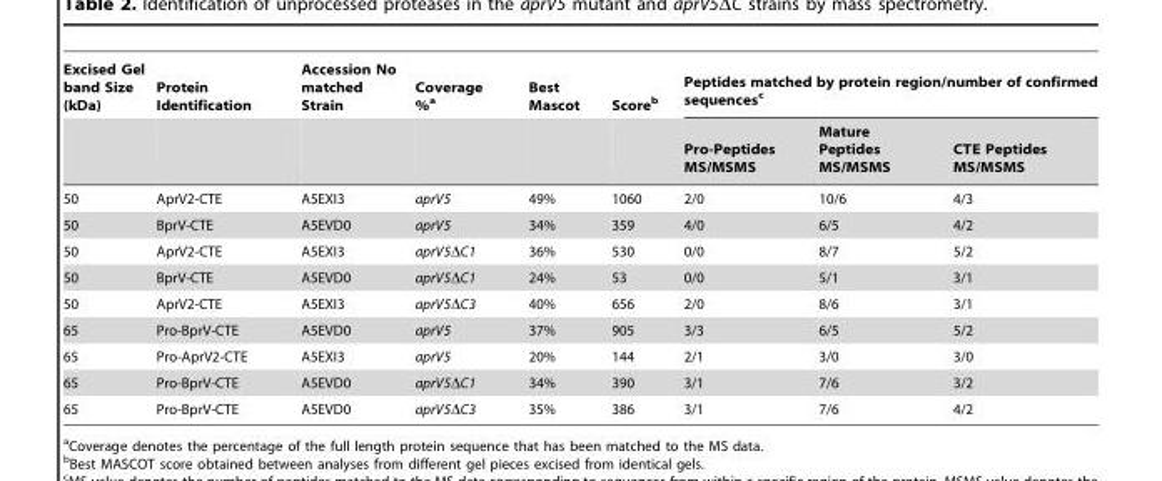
<table><thead><tr><td rowspan="2">Excised Gel band Size (kDa)</td><td rowspan="2">Protein Identification</td><td rowspan="2">Accession No matched Strain</td><td rowspan="2">Coverage %<sup>a</sup></td><td rowspan="2">Best Mascot</td><td rowspan="2">Score<sup>b</sup></td><td colspan="3">Peptides matched by protein region/number of confirmed sequences<sup>c</sup></td></tr><tr><td>Pro-Peptides MS/MSMS</td><td>Mature Peptides MS/MSMS</td><td>CTE Peptides MS/MSMS</td></tr></thead><tbody><tr><td>50</td><td>AprV2-CTE</td><td>A5EXI3</td><td>aprV5</td><td>49%</td><td>1060</td><td>2/0</td><td>10/6</td><td>4/3</td></tr><tr><td>50</td><td>BprV-CTE</td><td>A5EVD0</td><td>aprV5</td><td>34%</td><td>359</td><td>4/0</td><td>6/5</td><td>4/2</td></tr><tr><td>50</td><td>AprV2-CTE</td><td>A5EXI3</td><td>aprV5ΔC1</td><td>36%</td><td>530</td><td>0/0</td><td>8/7</td><td>5/2</td></tr><tr><td>50</td><td>BprV-CTE</td><td>A5EVD0</td><td>aprV5ΔC1</td><td>24%</td><td>53</td><td>0/0</td><td>5/1</td><td>3/1</td></tr><tr><td>50</td><td>AprV2-CTE</td><td>A5EXI3</td><td>aprV5ΔC3</td><td>40%</td><td>656</td><td>2/0</td><td>8/6</td><td>3/1</td></tr><tr><td>65</td><td>Pro-BprV-CTE</td><td>A5EVD0</td><td>aprV5</td><td>37%</td><td>905</td><td>3/3</td><td>6/5</td><td>5/2</td></tr><tr><td>65</td><td>Pro-AprV2-CTE</td><td>A5EXI3</td><td>aprV5</td><td>20%</td><td>144</td><td>2/1</td><td>3/0</td><td>3/0</td></tr><tr><td>65</td><td>Pro-BprV-CTE</td><td>A5EVD0</td><td>aprV5ΔC1</td><td>34%</td><td>390</td><td>3/1</td><td>7/6</td><td>3/2</td></tr><tr><td>65</td><td>Pro-BprV-CTE</td><td>A5EVD0</td><td>aprV5ΔC3</td><td>35%</td><td>386</td><td>3/1</td><td>7/6</td><td>4/2</td></tr></tbody></table>